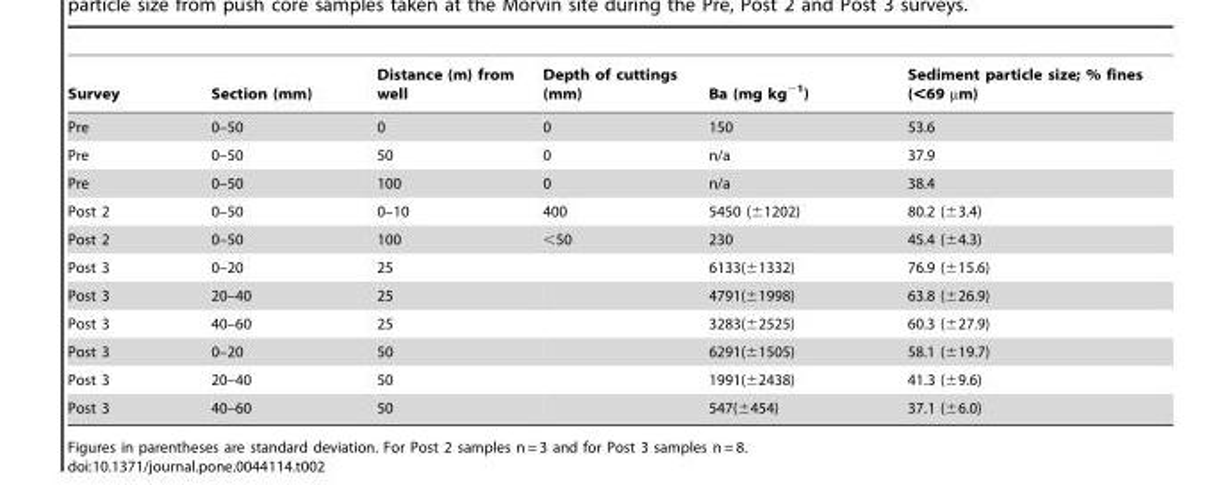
<table><thead><tr><td>Survey</td><td>Section (mm)</td><td>Distance (m) from well</td><td>Depth of cuttings (mm)</td><td>Ba (mg kg<sup>−1</sup>)</td><td>Sediment particle size; % fines (&lt;69 µm)</td></tr></thead><tbody><tr><td>Pre</td><td>0–50</td><td>0</td><td>0</td><td>150</td><td>53.6</td></tr><tr><td>Pre</td><td>0–50</td><td>50</td><td>0</td><td>n/a</td><td>37.9</td></tr><tr><td>Pre</td><td>0–50</td><td>100</td><td>0</td><td>n/a</td><td>38.4</td></tr><tr><td>Post 2</td><td>0–50</td><td>0–10</td><td>400</td><td>5450 (±1202)</td><td>80.2 (±3.4)</td></tr><tr><td>Post 2</td><td>0–50</td><td>100</td><td>&lt;50</td><td>230</td><td>45.4 (±4.3)</td></tr><tr><td>Post 3</td><td>0–20</td><td>25</td><td></td><td>6133(±1332)</td><td>76.9 (±15.6)</td></tr><tr><td>Post 3</td><td>20–40</td><td>25</td><td></td><td>4791(±1998)</td><td>63.8 (±26.9)</td></tr><tr><td>Post 3</td><td>40–60</td><td>25</td><td></td><td>3283(±2525)</td><td>60.3 (±27.9)</td></tr><tr><td>Post 3</td><td>0–20</td><td>50</td><td></td><td>6291(±1505)</td><td>58.1 (±19.7)</td></tr><tr><td>Post 3</td><td>20–40</td><td>50</td><td></td><td>1991(±2438)</td><td>41.3 (±9.6)</td></tr><tr><td>Post 3</td><td>40–60</td><td>50</td><td></td><td>547(±454)</td><td>37.1 (±6.0)</td></tr></tbody></table>